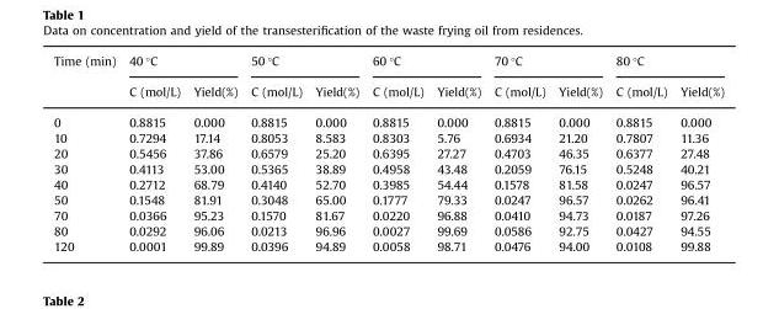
<table><thead><tr><td rowspan="2">Time (min)</td><td colspan="2">40 °C</td><td colspan="2">50 °C</td><td colspan="2">60 °C</td><td colspan="2">70 °C</td><td colspan="2">80 °C</td></tr><tr><td>C (mol/L)</td><td>Yield(%)</td><td>C (mol/L)</td><td>Yield(%)</td><td>C (mol/L)</td><td>Yield(%)</td><td>C (mol/L)</td><td>Yield(%)</td><td>C (mol/L)</td><td>Yield(%)</td></tr></thead><tbody><tr><td>0</td><td>0.8815</td><td>0.000</td><td>0.8815</td><td>0.000</td><td>0.8815</td><td>0.000</td><td>0.8815</td><td>0.000</td><td>0.8815</td><td>0.000</td></tr><tr><td>10</td><td>0.7294</td><td>17.14</td><td>0.8053</td><td>8.583</td><td>0.8303</td><td>5.76</td><td>0.6934</td><td>21.20</td><td>0.7807</td><td>11.36</td></tr><tr><td>20</td><td>0.5456</td><td>37.86</td><td>0.6579</td><td>25.20</td><td>0.6395</td><td>27.27</td><td>0.4703</td><td>46.35</td><td>0.6377</td><td>27.48</td></tr><tr><td>30</td><td>0.4113</td><td>53.00</td><td>0.5365</td><td>38.89</td><td>0.4958</td><td>43.48</td><td>0.2059</td><td>76.15</td><td>0.5248</td><td>40.21</td></tr><tr><td>40</td><td>0.2712</td><td>68.79</td><td>0.4140</td><td>52.70</td><td>0.3985</td><td>54.44</td><td>0.1578</td><td>81.58</td><td>0.0247</td><td>96.57</td></tr><tr><td>50</td><td>0.1548</td><td>81.91</td><td>0.3048</td><td>65.00</td><td>0.1777</td><td>79.33</td><td>0.0247</td><td>96.57</td><td>0.0262</td><td>96.41</td></tr><tr><td>70</td><td>0.0366</td><td>95.23</td><td>0.1570</td><td>81.67</td><td>0.0220</td><td>96.88</td><td>0.0410</td><td>94.73</td><td>0.0187</td><td>97.26</td></tr><tr><td>80</td><td>0.0292</td><td>96.06</td><td>0.0213</td><td>96.96</td><td>0.0027</td><td>99.69</td><td>0.0586</td><td>92.75</td><td>0.0427</td><td>94.55</td></tr><tr><td>120</td><td>0.0001</td><td>99.89</td><td>0.0396</td><td>94.89</td><td>0.0058</td><td>98.71</td><td>0.0476</td><td>94.00</td><td>0.0108</td><td>99.88</td></tr></tbody></table>